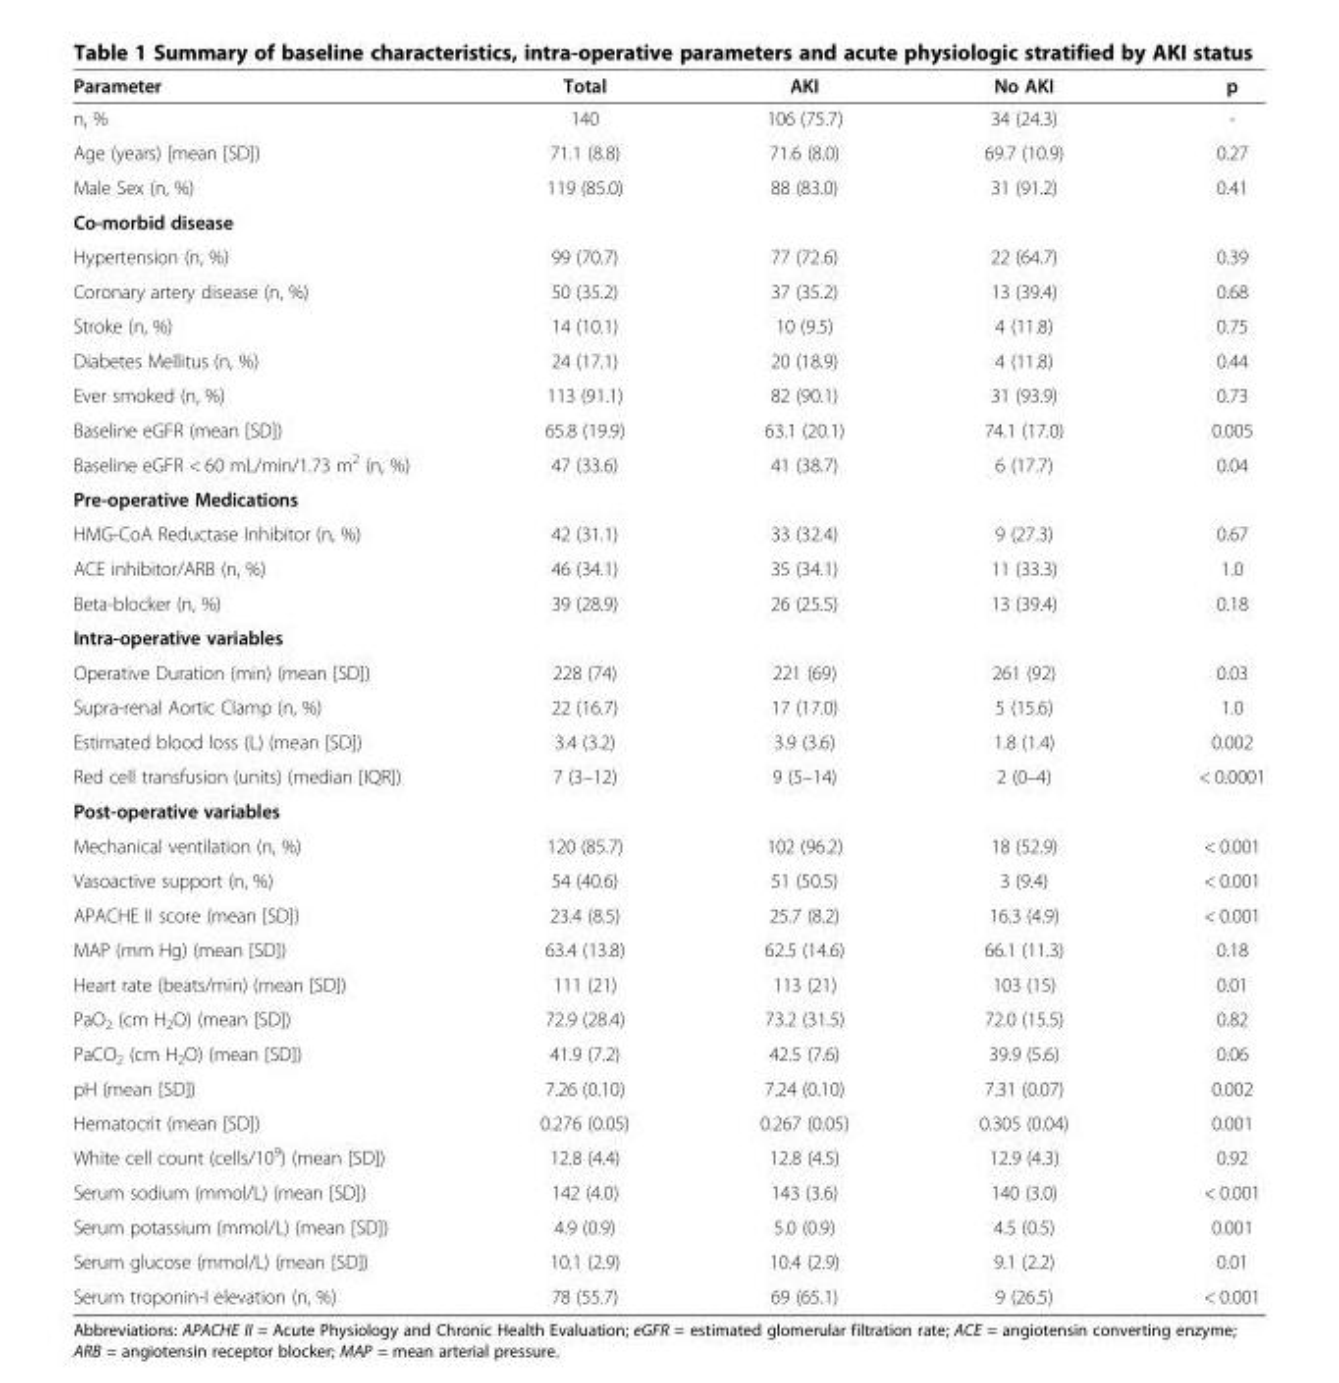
<table><thead><tr><td>Parameter</td><td>Total</td><td>AKI</td><td>No AKI</td><td>p</td></tr></thead><tbody><tr><td>n, %</td><td>140</td><td>106 (75.7)</td><td>34 (24.3)</td><td>-</td></tr><tr><td>Age (years) [mean [SD])</td><td>71.1 (8.8)</td><td>71.6 (8.0)</td><td>69.7 (10.9)</td><td>0.27</td></tr><tr><td>Male Sex (n, %)</td><td>119 (85.0)</td><td>88 (83.0)</td><td>31 (91.2)</td><td>0.41</td></tr><tr><td colspan="5">Co-morbid disease</td></tr><tr><td>Hypertension (n, %)</td><td>99 (70.7)</td><td>77 (72.6)</td><td>22 (64.7)</td><td>0.39</td></tr><tr><td>Coronary artery disease (n, %)</td><td>50 (35.2)</td><td>37 (35.2)</td><td>13 (39.4)</td><td>0.68</td></tr><tr><td>Stroke (n, %)</td><td>14 (10.1)</td><td>10 (9.5)</td><td>4 (11.8)</td><td>0.75</td></tr><tr><td>Diabetes Mellitus (n, %)</td><td>24 (17.1)</td><td>20 (18.9)</td><td>4 (11.8)</td><td>0.44</td></tr><tr><td>Ever smoked (n, %)</td><td>113 (91.1)</td><td>82 (90.1)</td><td>31 (93.9)</td><td>0.73</td></tr><tr><td>Baseline eGFR (mean [SD])</td><td>65.8 (19.9)</td><td>63.1 (20.1)</td><td>74.1 (17.0)</td><td>0.005</td></tr><tr><td>Baseline eGFR &lt; 60 mL/min/1.73 m<sup>2</sup> (n, %)</td><td>47 (33.6)</td><td>41 (38.7)</td><td>6 (17.7)</td><td>0.04</td></tr><tr><td colspan="5">Pre-operative Medications</td></tr><tr><td>HMG-CoA Reductase Inhibitor (n, %)</td><td>42 (31.1)</td><td>33 (32.4)</td><td>9 (27.3)</td><td>0.67</td></tr><tr><td>ACE inhibitor/ARB (n, %)</td><td>46 (34.1)</td><td>35 (34.1)</td><td>11 (33.3)</td><td>1.0</td></tr><tr><td>Beta-blocker (n, %)</td><td>39 (28.9)</td><td>26 (25.5)</td><td>13 (39.4)</td><td>0.18</td></tr><tr><td colspan="5">Intra-operative variables</td></tr><tr><td>Operative Duration (min) (mean [SD])</td><td>228 (74)</td><td>221 (69)</td><td>261 (92)</td><td>0.03</td></tr><tr><td>Supra-renal Aortic Clamp (n, %)</td><td>22 (16.7)</td><td>17 (17.0)</td><td>5 (15.6)</td><td>1.0</td></tr><tr><td>Estimated blood loss (L) (mean [SD])</td><td>3.4 (3.2)</td><td>3.9 (3.6)</td><td>1.8 (1.4)</td><td>0.002</td></tr><tr><td>Red cell transfusion (units) (median [IQR])</td><td>7 (3–12)</td><td>9 (5–14)</td><td>2 (0–4)</td><td>&lt; 0.0001</td></tr><tr><td colspan="5">Post-operative variables</td></tr><tr><td>Mechanical ventilation (n, %)</td><td>120 (85.7)</td><td>102 (96.2)</td><td>18 (52.9)</td><td>&lt; 0.001</td></tr><tr><td>Vasoactive support (n, %)</td><td>54 (40.6)</td><td>51 (50.5)</td><td>3 (9.4)</td><td>&lt; 0.001</td></tr><tr><td>APACHE II score (mean [SD])</td><td>23.4 (8.5)</td><td>25.7 (8.2)</td><td>16.3 (4.9)</td><td>&lt; 0.001</td></tr><tr><td>MAP (mm Hg) (mean [SD])</td><td>63.4 (13.8)</td><td>62.5 (14.6)</td><td>66.1 (11.3)</td><td>0.18</td></tr><tr><td>Heart rate (beats/min) (mean [SD])</td><td>111 (21)</td><td>113 (21)</td><td>103 (15)</td><td>0.01</td></tr><tr><td>PaO<sub>2</sub> (cm H<sub>2</sub>O) (mean [SD])</td><td>72.9 (28.4)</td><td>73.2 (31.5)</td><td>72.0 (15.5)</td><td>0.82</td></tr><tr><td>PaCO<sub>2</sub> (cm H<sub>2</sub>O) (mean [SD])</td><td>41.9 (7.2)</td><td>42.5 (7.6)</td><td>39.9 (5.6)</td><td>0.06</td></tr><tr><td>pH (mean [SD])</td><td>7.26 (0.10)</td><td>7.24 (0.10)</td><td>7.31 (0.07)</td><td>0.002</td></tr><tr><td>Hematocrit (mean [SD])</td><td>0.276 (0.05)</td><td>0.267 (0.05)</td><td>0.305 (0.04)</td><td>0.001</td></tr><tr><td>White cell count (cells/10<sup>9</sup>) (mean [SD])</td><td>12.8 (4.4)</td><td>12.8 (4.5)</td><td>12.9 (4.3)</td><td>0.92</td></tr><tr><td>Serum sodium (mmol/L) (mean [SD])</td><td>142 (4.0)</td><td>143 (3.6)</td><td>140 (3.0)</td><td>&lt; 0.001</td></tr><tr><td>Serum potassium (mmol/L) (mean [SD])</td><td>4.9 (0.9)</td><td>5.0 (0.9)</td><td>4.5 (0.5)</td><td>0.001</td></tr><tr><td>Serum glucose (mmol/L) (mean [SD])</td><td>10.1 (2.9)</td><td>10.4 (2.9)</td><td>9.1 (2.2)</td><td>0.01</td></tr><tr><td>Serum troponin-I elevation (n, %)</td><td>78 (55.7)</td><td>69 (65.1)</td><td>9 (26.5)</td><td>&lt; 0.001</td></tr></tbody></table>